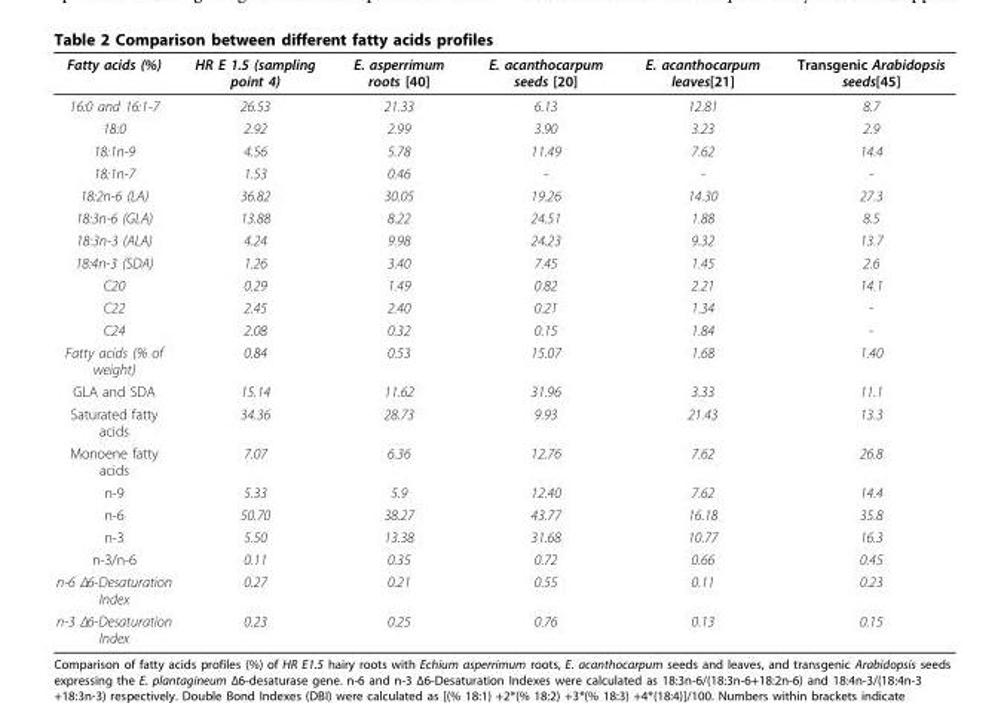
<table><thead><tr><td>Fatty acids (%)</td><td>HR E 1.5 (sampling point 4)</td><td>E. asperrimum roots [40]</td><td>E. acanthocarpum seeds [20]</td><td>E. acanthocarpum leaves[21]</td><td>Transgenic Arabidopsis seeds[45]</td></tr></thead><tbody><tr><td>16:0 and 16:1-7</td><td>26.53</td><td>21.33</td><td>6.13</td><td>12.81</td><td>8.7</td></tr><tr><td>18:0</td><td>2.92</td><td>2.99</td><td>3.90</td><td>3.23</td><td>2.9</td></tr><tr><td>18:1n-9</td><td>4.56</td><td>5.78</td><td>11.49</td><td>7.62</td><td>14.4</td></tr><tr><td>18:1n-7</td><td>1.53</td><td>0.46</td><td>-</td><td>-</td><td>-</td></tr><tr><td>18:2n-6 (LA)</td><td>36.82</td><td>30.05</td><td>19.26</td><td>14.30</td><td>27.3</td></tr><tr><td>18:3n-6 (GLA)</td><td>13.88</td><td>8.22</td><td>24.51</td><td>1.88</td><td>8.5</td></tr><tr><td>18:3n-3 (ALA)</td><td>4.24</td><td>9.98</td><td>24.23</td><td>9.32</td><td>13.7</td></tr><tr><td>18:4n-3 (SDA)</td><td>1.26</td><td>3.40</td><td>7.45</td><td>1.45</td><td>2.6</td></tr><tr><td>C20</td><td>0.29</td><td>1.49</td><td>0.82</td><td>2.21</td><td>14.1</td></tr><tr><td>C22</td><td>2.45</td><td>2.40</td><td>0.21</td><td>1.34</td><td>-</td></tr><tr><td>C24</td><td>2.08</td><td>0.32</td><td>0.15</td><td>1.84</td><td>-</td></tr><tr><td>Fatty acids (% of weight)</td><td>0.84</td><td>0.53</td><td>15.07</td><td>1.68</td><td>1.40</td></tr><tr><td>GLA and SDA</td><td>15.14</td><td>11.62</td><td>31.96</td><td>3.33</td><td>11.1</td></tr><tr><td>Saturated fatty acids</td><td>34.36</td><td>28.73</td><td>9.93</td><td>21.43</td><td>13.3</td></tr><tr><td>Monoene fatty acids</td><td>7.07</td><td>6.36</td><td>12.76</td><td>7.62</td><td>26.8</td></tr><tr><td>n-9</td><td>5.33</td><td>5.9</td><td>12.40</td><td>7.62</td><td>14.4</td></tr><tr><td>n-6</td><td>50.70</td><td>38.27</td><td>43.77</td><td>16.18</td><td>35.8</td></tr><tr><td>n-3</td><td>5.50</td><td>13.38</td><td>31.68</td><td>10.77</td><td>16.3</td></tr><tr><td>n-3/n-6</td><td>0.11</td><td>0.35</td><td>0.72</td><td>0.66</td><td>0.45</td></tr><tr><td>n-6 Δ6-Desaturation Index</td><td>0.27</td><td>0.21</td><td>0.55</td><td>0.11</td><td>0.23</td></tr><tr><td>n-3 Δ6-Desaturation Index</td><td>0.23</td><td>0.25</td><td>0.76</td><td>0.13</td><td>0.15</td></tr></tbody></table>